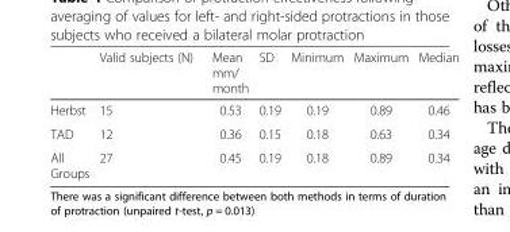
<table><thead><tr><td></td><td>Valid subjects (N)</td><td>Mean mm/ month</td><td>SD</td><td>Minimum</td><td>Maximum</td><td>Median</td></tr></thead><tbody><tr><td>Herbst</td><td>15</td><td>0.53</td><td>0.19</td><td>0.19</td><td>0.89</td><td>0.46</td></tr><tr><td>TAD</td><td>12</td><td>0.36</td><td>0.15</td><td>0.18</td><td>0.63</td><td>0.34</td></tr><tr><td>All Groups</td><td>27</td><td>0.45</td><td>0.19</td><td>0.18</td><td>0.89</td><td>0.34</td></tr></tbody></table>